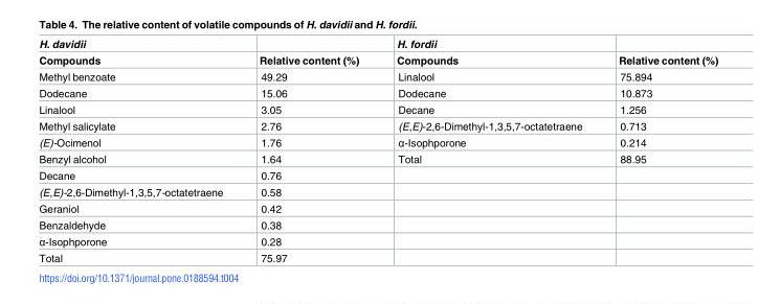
<table><thead><tr><td rowspan="2">H. davidii Compounds</td><td rowspan="2">Relative content (%)</td><td rowspan="2">H. fordii Compounds</td><td rowspan="2">Relative content (%)</td></tr><tr></tr></thead><tbody><tr><td>Methyl benzoate</td><td>49.29</td><td>Linalool</td><td>75.894</td></tr><tr><td>Dodecane</td><td>15.06</td><td>Dodecane</td><td>10.873</td></tr><tr><td>Linalool</td><td>3.05</td><td>Decane</td><td>1.256</td></tr><tr><td>Methyl salicylate</td><td>2.76</td><td>(E,E)-2,6-Dimethyl-1,3,5,7-octatetraene</td><td>0.713</td></tr><tr><td>(E)-Ocimenol</td><td>1.76</td><td>α-Isophporone</td><td>0.214</td></tr><tr><td>Benzyl alcohol</td><td>1.64</td><td>Total</td><td>88.95</td></tr><tr><td>Decane</td><td>0.76</td><td></td><td></td></tr><tr><td>(E,E)-2,6-Dimethyl-1,3,5,7-octatetraene</td><td>0.58</td><td></td><td></td></tr><tr><td>Geraniol</td><td>0.42</td><td></td><td></td></tr><tr><td>Benzaldehyde</td><td>0.38</td><td></td><td></td></tr><tr><td>α-Isophporone</td><td>0.28</td><td></td><td></td></tr><tr><td>Total</td><td>75.97</td><td></td><td></td></tr></tbody></table>